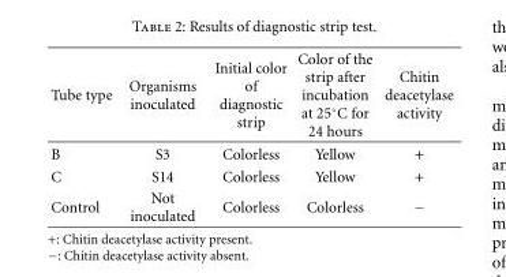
<table><thead><tr><td>Tube type</td><td>Organisms inoculated</td><td>Initial color of diagnostic strip</td><td>Color of the strip after incubation at 25◦C for 24 hours</td><td>Chitin deacetylase activity</td></tr></thead><tbody><tr><td>B</td><td>S3</td><td>Colorless</td><td>Yellow</td><td>+</td></tr><tr><td>C</td><td>S14</td><td>Colorless</td><td>Yellow</td><td>+</td></tr><tr><td>Control</td><td>Not inoculated</td><td>Colorless</td><td>Colorless</td><td>−</td></tr></tbody></table>